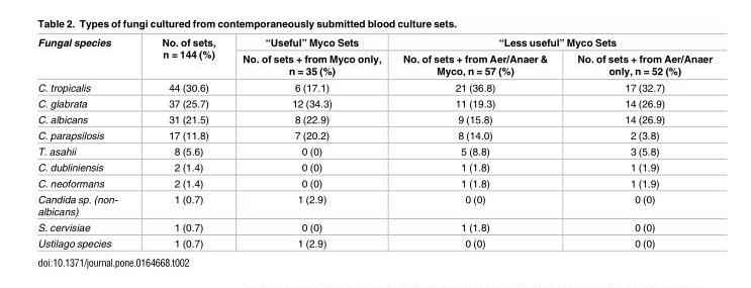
<table><thead><tr><td rowspan="2">Fungal species</td><td rowspan="2">No. of sets, n = 144 (%)</td><td rowspan="2">“Useful” Myco Sets No. of sets + from Myco only, n = 35 (%)</td><td colspan="2">“Less useful” Myco Sets</td></tr><tr><td>No. of sets + from Aer/Anaer &amp; Myco, n = 57 (%)</td><td>No. of sets + from Aer/Anaer only, n = 52 (%)</td></tr></thead><tbody><tr><td>C. tropicalis</td><td>44 (30.6)</td><td>6 (17.1)</td><td>21 (36.8)</td><td>17 (32.7)</td></tr><tr><td>C. glabrata</td><td>37 (25.7)</td><td>12 (34.3)</td><td>11 (19.3)</td><td>14 (26.9)</td></tr><tr><td>C. albicans</td><td>31 (21.5)</td><td>8 (22.9)</td><td>9 (15.8)</td><td>14 (26.9)</td></tr><tr><td>C. parapsilosis</td><td>17 (11.8)</td><td>7 (20.2)</td><td>8 (14.0)</td><td>2 (3.8)</td></tr><tr><td>T. asahii</td><td>8 (5.6)</td><td>0 (0)</td><td>5 (8.8)</td><td>3 (5.8)</td></tr><tr><td>C. dubliniensis</td><td>2 (1.4)</td><td>0 (0)</td><td>1 (1.8)</td><td>1 (1.9)</td></tr><tr><td>C. neoformans</td><td>2 (1.4)</td><td>0 (0)</td><td>1 (1.8)</td><td>1 (1.9)</td></tr><tr><td>Candida sp. (non- albicans)</td><td>1 (0.7)</td><td>1 (2.9)</td><td>0 (0)</td><td>0 (0)</td></tr><tr><td>S. cervisiae</td><td>1 (0.7)</td><td>0 (0)</td><td>1 (1.8)</td><td>0 (0)</td></tr><tr><td>Ustilago species</td><td>1 (0.7)</td><td>1 (2.9)</td><td>0 (0)</td><td>0 (0)</td></tr></tbody></table>